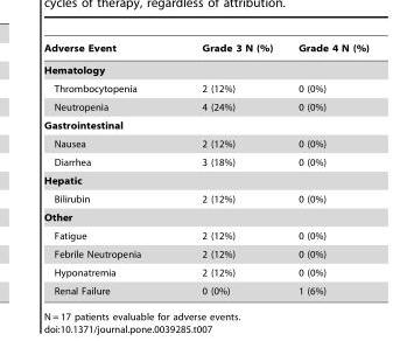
<table><thead><tr><td>Adverse Event</td><td>Grade 3 N (%)</td><td>Grade 4 N (%)</td></tr></thead><tbody><tr><td colspan="3">Hematology</td></tr><tr><td>Thrombocytopenia</td><td>2 (12%)</td><td>0 (0%)</td></tr><tr><td>Neutropenia</td><td>4 (24%)</td><td>0 (0%)</td></tr><tr><td colspan="3">Gastrointestinal</td></tr><tr><td>Nausea</td><td>2 (12%)</td><td>0 (0%)</td></tr><tr><td>Diarrhea</td><td>3 (18%)</td><td>0 (0%)</td></tr><tr><td colspan="3">Hepatic</td></tr><tr><td>Bilirubin</td><td>2 (12%)</td><td>0 (0%)</td></tr><tr><td colspan="3">Other</td></tr><tr><td>Fatigue</td><td>2 (12%)</td><td>0 (0%)</td></tr><tr><td>Febrile Neutropenia</td><td>2 (12%)</td><td>0 (0%)</td></tr><tr><td>Hyponatremia</td><td>2 (12%)</td><td>0 (0%)</td></tr><tr><td>Renal Failure</td><td>0 (0%)</td><td>1 (6%)</td></tr></tbody></table>